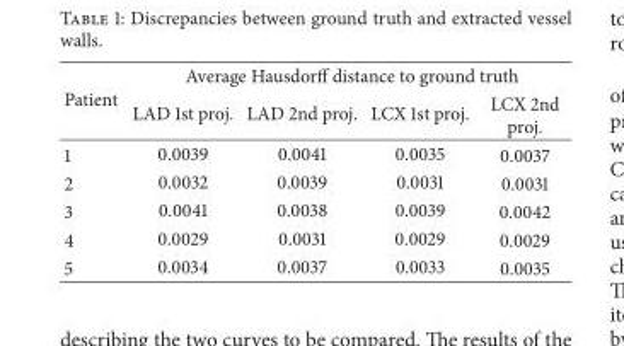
<table><thead><tr><td rowspan="2">Patient</td><td colspan="4">Average Hausdorff distance to ground truth</td></tr><tr><td>LAD 1st proj.</td><td>LAD 2nd proj.</td><td>LCX 1st proj.</td><td>LCX 2nd proj.</td></tr></thead><tbody><tr><td>1</td><td>0.0039</td><td>0.0041</td><td>0.0035</td><td>0.0037</td></tr><tr><td>2</td><td>0.0032</td><td>0.0039</td><td>0.0031</td><td>0.0031</td></tr><tr><td>3</td><td>0.0041</td><td>0.0038</td><td>0.0039</td><td>0.0042</td></tr><tr><td>4</td><td>0.0029</td><td>0.0031</td><td>0.0029</td><td>0.0029</td></tr><tr><td>5</td><td>0.0034</td><td>0.0037</td><td>0.0033</td><td>0.0035</td></tr></tbody></table>